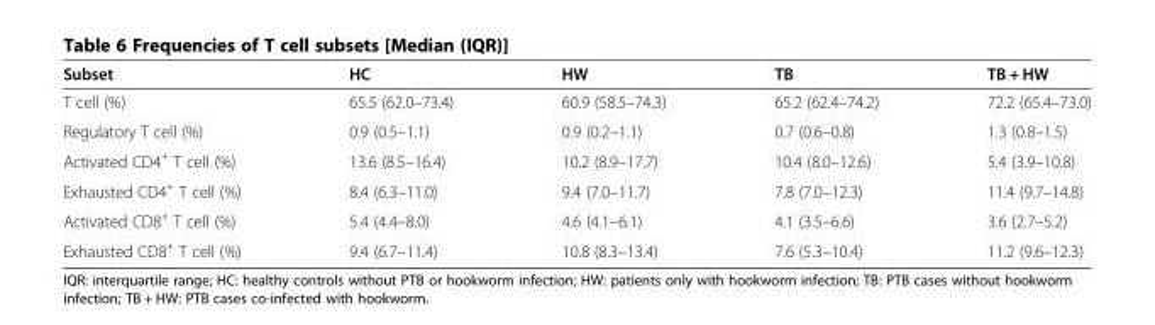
<table><thead><tr><td>Subset</td><td>HC</td><td>HW</td><td>TB</td><td>TB + HW</td></tr></thead><tbody><tr><td>T cell (%)</td><td>65.5 (62.0–73.4)</td><td>60.9 (58.5–74.3)</td><td>65.2 (62.4–74.2)</td><td>72.2 (65.4–73.0)</td></tr><tr><td>Regulatory T cell (%)</td><td>0.9 (0.5–1.1)</td><td>0.9 (0.2–1.1)</td><td>0.7 (0.6–0.8)</td><td>1.3 (0.8–1.5)</td></tr><tr><td>Activated CD4<sup>+</sup> T cell (%)</td><td>13.6 (8.5–16.4)</td><td>10.2 (8.9–17.7)</td><td>10.4 (8.0–12.6)</td><td>5.4 (3.9–10.8)</td></tr><tr><td>Exhausted CD4<sup>+</sup> T cell (%)</td><td>8.4 (6.3–11.0)</td><td>9.4 (7.0–11.7)</td><td>7.8 (7.0–12.3)</td><td>11.4 (9.7–14.8)</td></tr><tr><td>Activated CD8<sup>+</sup> T cell (%)</td><td>5.4 (4.4–8.0)</td><td>4.6 (4.1–6.1)</td><td>4.1 (3.5–6.6)</td><td>3.6 (2.7–5.2)</td></tr><tr><td>Exhausted CD8<sup>+</sup> T cell (%)</td><td>9.4 (6.7–11.4)</td><td>10.8 (8.3–13.4)</td><td>7.6 (5.3–10.4)</td><td>11.2 (9.6–12.3)</td></tr></tbody></table>